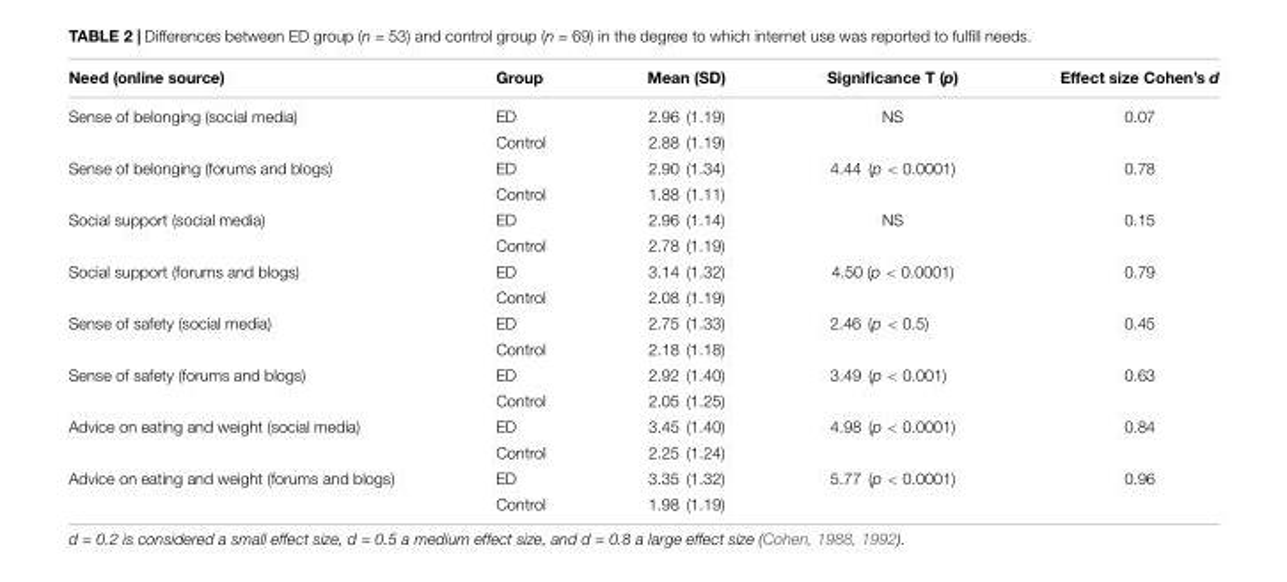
<table><thead><tr><td>Need (online source)</td><td>Group</td><td>Mean (SD)</td><td>Significance T (p)</td><td>Effect size Cohen’s d</td></tr></thead><tbody><tr><td rowspan="2">Sense of belonging (social media)</td><td>ED</td><td>2.96 (1.19)</td><td>NS</td><td>0.07</td></tr><tr><td>Control</td><td>2.88 (1.19)</td><td></td><td></td></tr><tr><td rowspan="2">Sense of belonging (forums and blogs)</td><td>ED</td><td>2.90 (1.34)</td><td>4.44 (p &lt; 0.0001)</td><td>0.78</td></tr><tr><td>Control</td><td>1.88 (1.11)</td><td></td><td></td></tr><tr><td rowspan="2">Social support (social media)</td><td>ED</td><td>2.96 (1.14)</td><td>NS</td><td>0.15</td></tr><tr><td>Control</td><td>2.78 (1.19)</td><td></td><td></td></tr><tr><td rowspan="2">Social support (forums and blogs)</td><td>ED</td><td>3.14 (1.32)</td><td>4.50 (p &lt; 0.0001)</td><td>0.79</td></tr><tr><td>Control</td><td>2.08 (1.19)</td><td></td><td></td></tr><tr><td rowspan="2">Sense of safety (social media)</td><td>ED</td><td>2.75 (1.33)</td><td>2.46 (p &lt; 0.5)</td><td>0.45</td></tr><tr><td>Control</td><td>2.18 (1.18)</td><td></td><td></td></tr><tr><td rowspan="2">Sense of safety (forums and blogs)</td><td>ED</td><td>2.92 (1.40)</td><td>3.49 (p &lt; 0.001)</td><td>0.63</td></tr><tr><td>Control</td><td>2.05 (1.25)</td><td></td><td></td></tr><tr><td rowspan="2">Advice on eating and weight (social media)</td><td>ED</td><td>3.45 (1.40)</td><td>4.98 (p &lt; 0.0001)</td><td>0.84</td></tr><tr><td>Control</td><td>2.25 (1.24)</td><td></td><td></td></tr><tr><td rowspan="2">Advice on eating and weight (forums and blogs)</td><td>ED</td><td>3.35 (1.32)</td><td>5.77 (p &lt; 0.0001)</td><td>0.96</td></tr><tr><td>Control</td><td>1.98 (1.19)</td><td></td><td></td></tr></tbody></table>